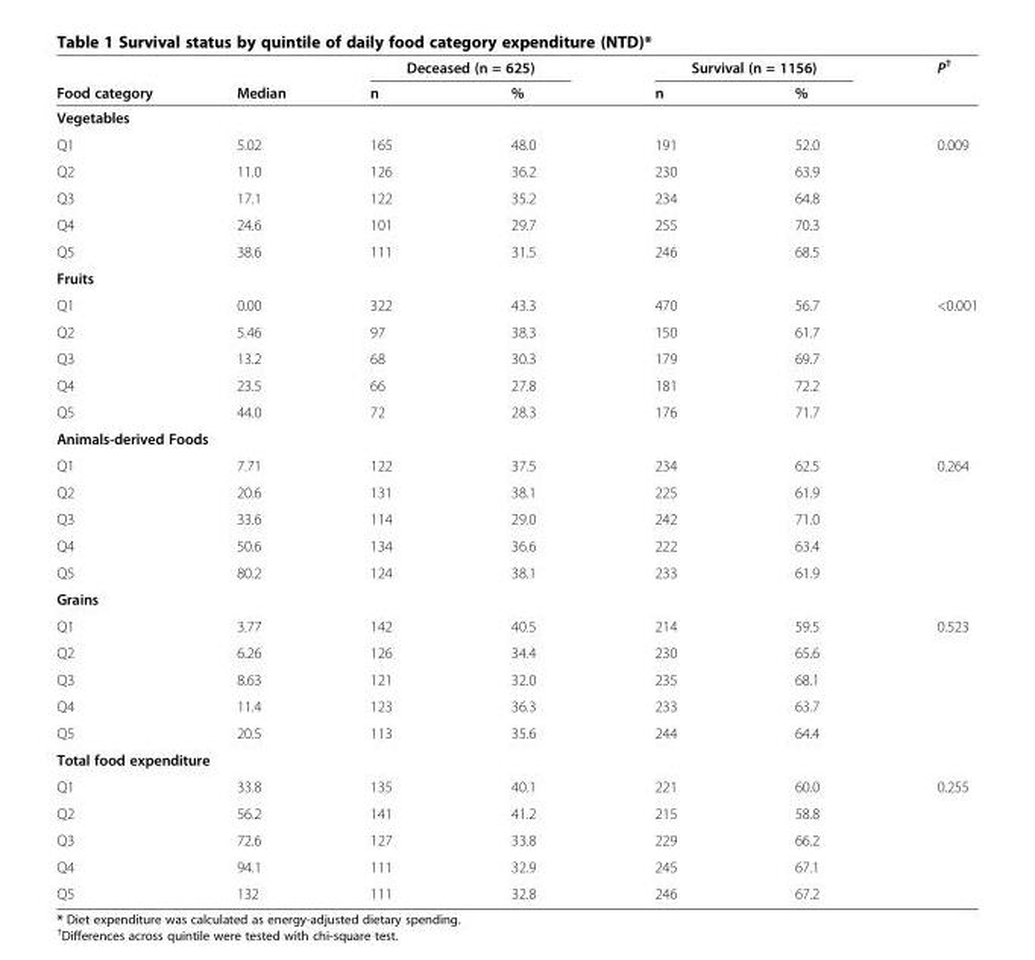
<table><thead><tr><td rowspan="2">Food category</td><td rowspan="2">Median</td><td colspan="2">Deceased (n = 625)</td><td colspan="2">Survival (n = 1156)</td><td rowspan="2">P<sup>†</sup></td></tr><tr><td>n</td><td>%</td><td>n</td><td>%</td></tr></thead><tbody><tr><td colspan="7">Vegetables</td></tr><tr><td>Q1</td><td>5.02</td><td>165</td><td>48.0</td><td>191</td><td>52.0</td><td>0.009</td></tr><tr><td>Q2</td><td>11.0</td><td>126</td><td>36.2</td><td>230</td><td>63.9</td><td></td></tr><tr><td>Q3</td><td>17.1</td><td>122</td><td>35.2</td><td>234</td><td>64.8</td><td></td></tr><tr><td>Q4</td><td>24.6</td><td>101</td><td>29.7</td><td>255</td><td>70.3</td><td></td></tr><tr><td>Q5</td><td>38.6</td><td>111</td><td>31.5</td><td>246</td><td>68.5</td><td></td></tr><tr><td colspan="7">Fruits</td></tr><tr><td>Q1</td><td>0.00</td><td>322</td><td>43.3</td><td>470</td><td>56.7</td><td>&lt;0.001</td></tr><tr><td>Q2</td><td>5.46</td><td>97</td><td>38.3</td><td>150</td><td>61.7</td><td></td></tr><tr><td>Q3</td><td>13.2</td><td>68</td><td>30.3</td><td>179</td><td>69.7</td><td></td></tr><tr><td>Q4</td><td>23.5</td><td>66</td><td>27.8</td><td>181</td><td>72.2</td><td></td></tr><tr><td>Q5</td><td>44.0</td><td>72</td><td>28.3</td><td>176</td><td>71.7</td><td></td></tr><tr><td colspan="7">Animals-derived Foods</td></tr><tr><td>Q1</td><td>7.71</td><td>122</td><td>37.5</td><td>234</td><td>62.5</td><td>0.264</td></tr><tr><td>Q2</td><td>20.6</td><td>131</td><td>38.1</td><td>225</td><td>61.9</td><td></td></tr><tr><td>Q3</td><td>33.6</td><td>114</td><td>29.0</td><td>242</td><td>71.0</td><td></td></tr><tr><td>Q4</td><td>50.6</td><td>134</td><td>36.6</td><td>222</td><td>63.4</td><td></td></tr><tr><td>Q5</td><td>80.2</td><td>124</td><td>38.1</td><td>233</td><td>61.9</td><td></td></tr><tr><td colspan="7">Grains</td></tr><tr><td>Q1</td><td>3.77</td><td>142</td><td>40.5</td><td>214</td><td>59.5</td><td>0.523</td></tr><tr><td>Q2</td><td>6.26</td><td>126</td><td>34.4</td><td>230</td><td>65.6</td><td></td></tr><tr><td>Q3</td><td>8.63</td><td>121</td><td>32.0</td><td>235</td><td>68.1</td><td></td></tr><tr><td>Q4</td><td>11.4</td><td>123</td><td>36.3</td><td>233</td><td>63.7</td><td></td></tr><tr><td>Q5</td><td>20.5</td><td>113</td><td>35.6</td><td>244</td><td>64.4</td><td></td></tr><tr><td colspan="7">Total food expenditure</td></tr><tr><td>Q1</td><td>33.8</td><td>135</td><td>40.1</td><td>221</td><td>60.0</td><td>0.255</td></tr><tr><td>Q2</td><td>56.2</td><td>141</td><td>41.2</td><td>215</td><td>58.8</td><td></td></tr><tr><td>Q3</td><td>72.6</td><td>127</td><td>33.8</td><td>229</td><td>66.2</td><td></td></tr><tr><td>Q4</td><td>94.1</td><td>111</td><td>32.9</td><td>245</td><td>67.1</td><td></td></tr><tr><td>Q5</td><td>132</td><td>111</td><td>32.8</td><td>246</td><td>67.2</td><td></td></tr></tbody></table>